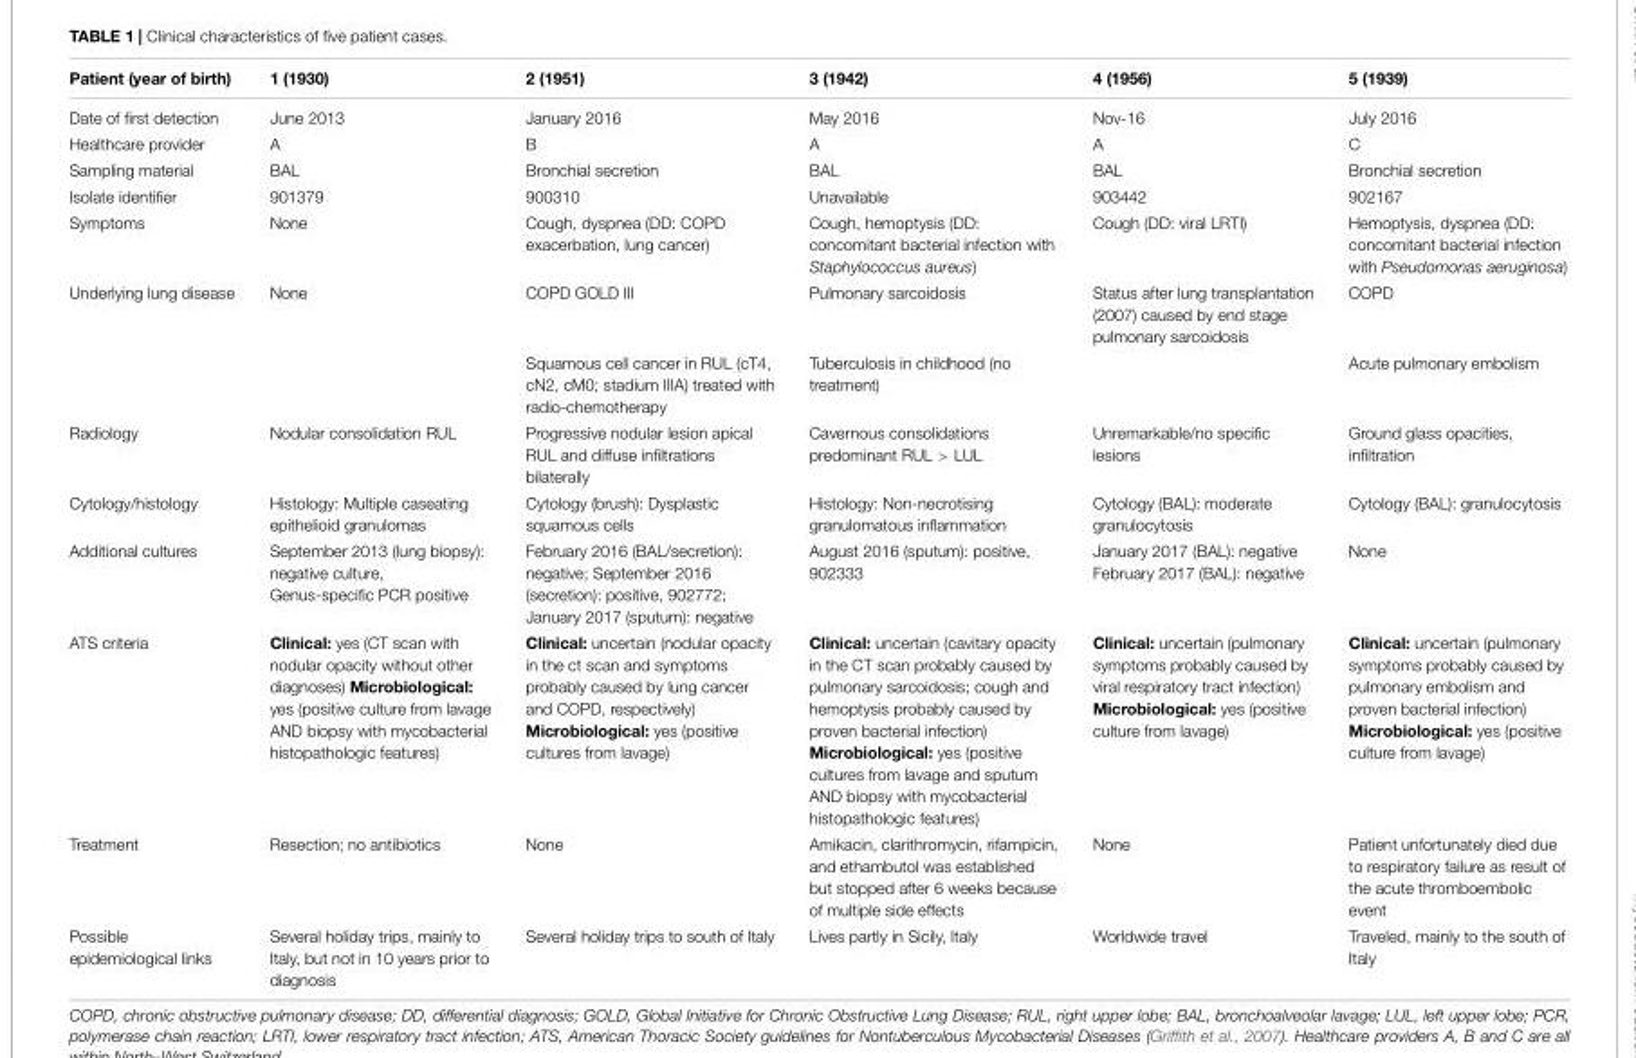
<table><thead><tr><td>Patient (year of birth)</td><td>1 (1930)</td><td>2 (1951)</td><td>3 (1942)</td><td>4 (1956)</td><td>5 (1939)</td></tr></thead><tbody><tr><td>Date of first detection</td><td>June 2013</td><td>January 2016</td><td>May 2016</td><td>Nov-16</td><td>July 2016</td></tr><tr><td>Healthcare provider</td><td>A</td><td>B</td><td>A</td><td>A</td><td>C</td></tr><tr><td>Sampling material</td><td>BAL</td><td>Bronchial secretion</td><td>BAL</td><td>BAL</td><td>Bronchial secretion</td></tr><tr><td>Isolate identifier</td><td>901379</td><td>900310</td><td>Unavailable</td><td>903442</td><td>902167</td></tr><tr><td>Symptoms</td><td>None</td><td>Cough, dyspnea (DD: COPD exacerbation, lung cancer)</td><td>Cough, hemoptysis (DD: concomitant bacterial infection with Staphylococcus aureus)</td><td>Cough (DD: viral LRTI)</td><td>Hemoptysis, dyspnea (DD: concomitant bacterial infection with Pseudomonas aeruginosa)</td></tr><tr><td rowspan="2">Underlying lung disease</td><td>None</td><td>COPD GOLD III</td><td>Pulmonary sarcoidosis</td><td>Status after lung transplantation (2007) caused by end stage pulmonary sarcoidosis</td><td>COPD</td></tr><tr><td></td><td>Squamous cell cancer in RUL (cT4, cN2, cM0; stadium IIIA) treated with radio-chemotherapy</td><td>Tuberculosis in childhood (no treatment)</td><td></td><td>Acute pulmonary embolism</td></tr><tr><td>Radiology</td><td>Nodular consolidation RUL</td><td>Progressive nodular lesion apical RUL and diffuse infiltrations bilaterally</td><td>Cavernous consolidations predominant RUL &gt; LUL</td><td>Unremarkable/no specific lesions</td><td>Ground glass opacities, infiltration</td></tr><tr><td>Cytology/histology</td><td>Histology: Multiple caseating epithelioid granulomas</td><td>Cytology (brush): Dysplastic squamous cells</td><td>Histology: Non-necrotising granulomatous inflammation</td><td>Cytology (BAL): moderate granulocytosis</td><td>Cytology (BAL): granulocytosis</td></tr><tr><td>Additional cultures</td><td>September 2013 (lung biopsy): negative culture, Genus-specific PCR positive</td><td>February 2016 (BAL/secretion): negative; September 2016 (secretion): positive, 902772; January 2017 (sputum): negative</td><td>August 2016 (sputum): positive, 902333</td><td>January 2017 (BAL): negative February 2017 (BAL): negative</td><td>None</td></tr><tr><td>ATS criteria</td><td>Clinical: yes (CT scan with nodular opacity without other diagnoses) Microbiological: yes (positive culture from lavage AND biopsy with mycobacterial histopathologic features)</td><td>Clinical: uncertain (nodular opacity in the ct scan and symptoms probably caused by lung cancer and COPD, respectively) Microbiological: yes (positive cultures from lavage)</td><td>Clinical: uncertain (cavitary opacity in the CT scan probably caused by pulmonary sarcoidosis; cough and hemoptysis probably caused by proven bacterial infection) Microbiological: yes (positive cultures from lavage and sputum AND biopsy with mycobacterial histopathologic features)</td><td>Clinical: uncertain (pulmonary symptoms probably caused by viral respiratory tract infection) Microbiological: yes (positive culture from lavage)</td><td>Clinical: uncertain (pulmonary symptoms probably caused by pulmonary embolism and proven bacterial infection) Microbiological: yes (positive culture from lavage)</td></tr><tr><td>Treatment</td><td>Resection; no antibiotics</td><td>None</td><td>Amikacin, clarithromycin, rifampicin, and ethambutol was established but stopped after 6 weeks because of multiple side effects</td><td>None</td><td>Patient unfortunately died due to respiratory failure as result of the acute thromboembolic event</td></tr><tr><td>Possible epidemiological links</td><td>Several holiday trips, mainly to Italy, but not in 10 years prior to diagnosis</td><td>Several holiday trips to south of Italy</td><td>Lives partly in Sicily, Italy</td><td>Worldwide travel</td><td>Traveled, mainly to the south of Italy</td></tr></tbody></table>